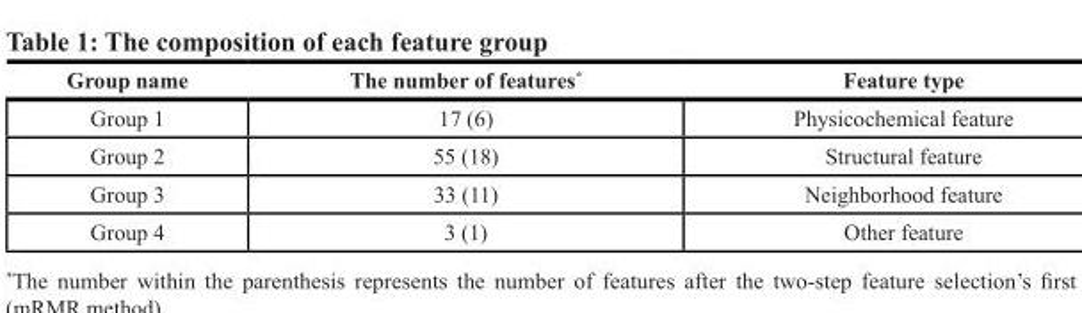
<table><thead><tr><td>Group name</td><td>The number of features*</td><td>Feature type</td></tr></thead><tbody><tr><td>Group 1</td><td>17 (6)</td><td>Physicochemical feature</td></tr><tr><td>Group 2</td><td>55 (18)</td><td>Structural feature</td></tr><tr><td>Group 3</td><td>33 (11)</td><td>Neighborhood feature</td></tr><tr><td>Group 4</td><td>3 (1)</td><td>Other feature</td></tr></tbody></table>